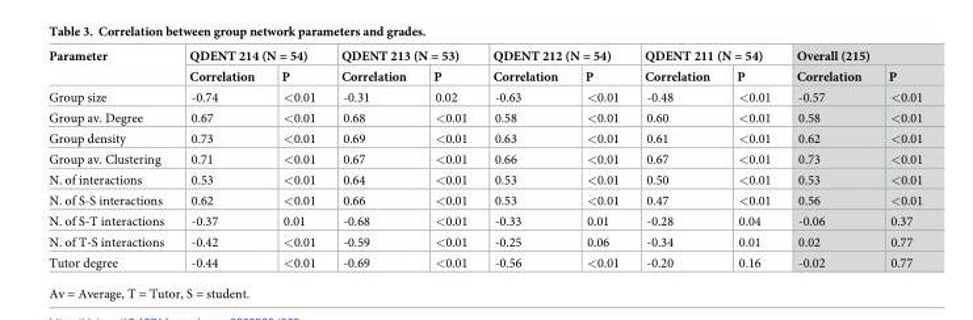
<table><thead><tr><td rowspan="2">Parameter</td><td colspan="2">QDENT 214 (N = 54)</td><td colspan="2">QDENT 213 (N = 53)</td><td colspan="2">QDENT 212 (N = 54)</td><td colspan="2">QDENT 211 (N = 54)</td><td colspan="2">Overall (215)</td></tr><tr><td>Correlation</td><td>P</td><td>Correlation</td><td>P</td><td>Correlation</td><td>P</td><td>Correlation</td><td>P</td><td>Correlation</td><td>P</td></tr></thead><tbody><tr><td>Group size</td><td>-0.74</td><td>&lt;0.01</td><td>-0.31</td><td>0.02</td><td>-0.63</td><td>&lt;0.01</td><td>-0.48</td><td>&lt;0.01</td><td>-0.57</td><td>&lt;0.01</td></tr><tr><td>Group av. Degree</td><td>0.67</td><td>&lt;0.01</td><td>0.68</td><td>&lt;0.01</td><td>0.58</td><td>&lt;0.01</td><td>0.60</td><td>&lt;0.01</td><td>0.58</td><td>&lt;0.01</td></tr><tr><td>Group density</td><td>0.73</td><td>&lt;0.01</td><td>0.69</td><td>&lt;0.01</td><td>0.63</td><td>&lt;0.01</td><td>0.61</td><td>&lt;0.01</td><td>0.62</td><td>&lt;0.01</td></tr><tr><td>Group av. Clustering</td><td>0.71</td><td>&lt;0.01</td><td>0.67</td><td>&lt;0.01</td><td>0.66</td><td>&lt;0.01</td><td>0.67</td><td>&lt;0.01</td><td>0.73</td><td>&lt;0.01</td></tr><tr><td>N. of interactions</td><td>0.53</td><td>&lt;0.01</td><td>0.64</td><td>&lt;0.01</td><td>0.53</td><td>&lt;0.01</td><td>0.50</td><td>&lt;0.01</td><td>0.53</td><td>&lt;0.01</td></tr><tr><td>N. of S-S interactions</td><td>0.62</td><td>&lt;0.01</td><td>0.66</td><td>&lt;0.01</td><td>0.53</td><td>&lt;0.01</td><td>0.47</td><td>&lt;0.01</td><td>0.56</td><td>&lt;0.01</td></tr><tr><td>N. of S-T interactions</td><td>-0.37</td><td>0.01</td><td>-0.68</td><td>&lt;0.01</td><td>-0.33</td><td>0.01</td><td>-0.28</td><td>0.04</td><td>-0.06</td><td>0.37</td></tr><tr><td>N. of T-S interactions</td><td>-0.42</td><td>&lt;0.01</td><td>-0.59</td><td>&lt;0.01</td><td>-0.25</td><td>0.06</td><td>-0.34</td><td>0.01</td><td>0.02</td><td>0.77</td></tr><tr><td>Tutor degree</td><td>-0.44</td><td>&lt;0.01</td><td>-0.69</td><td>&lt;0.01</td><td>-0.56</td><td>&lt;0.01</td><td>-0.20</td><td>0.16</td><td>-0.02</td><td>0.77</td></tr></tbody></table>